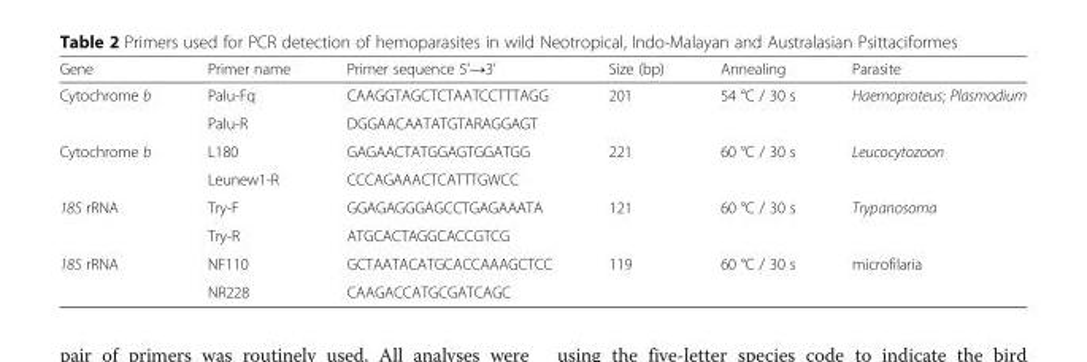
<table><thead><tr><td>Gene</td><td>Primer name</td><td>Primer sequence 5’→3’</td><td>Size (bp)</td><td>Annealing</td><td>Parasite</td></tr></thead><tbody><tr><td rowspan="2">Cytochrome b</td><td>Palu-Fq</td><td>CAAGGTAGCTCTAATCCTTTAGG</td><td rowspan="2">201</td><td rowspan="2">54 °C / 30 s</td><td rowspan="2">Haemoproteus; Plasmodium</td></tr><tr><td>Palu-R</td><td>DGGAACAATATGTARAGGAGT</td></tr><tr><td rowspan="2">Cytochrome b</td><td>L180</td><td>GAGAACTATGGAGTGGATGG</td><td rowspan="2">221</td><td rowspan="2">60 °C / 30 s</td><td rowspan="2">Leucocytozoon</td></tr><tr><td>Leunew1-R</td><td>CCCAGAAACTCATTTGWCC</td></tr><tr><td rowspan="2">18S rRNA</td><td>Try-F</td><td>GGAGAGGGAGCCTGAGAAATA</td><td rowspan="2">121</td><td rowspan="2">60 °C / 30 s</td><td rowspan="2">Trypanosoma</td></tr><tr><td>Try-R</td><td>ATGCACTAGGCACCGTCG</td></tr><tr><td rowspan="2">18S rRNA</td><td>NF110</td><td>GCTAATACATGCACCAAAGCTCC</td><td rowspan="2">119</td><td rowspan="2">60 °C / 30 s</td><td rowspan="2">microfilaria</td></tr><tr><td>NR228</td><td>CAAGACCATGCGATCAGC</td></tr></tbody></table>